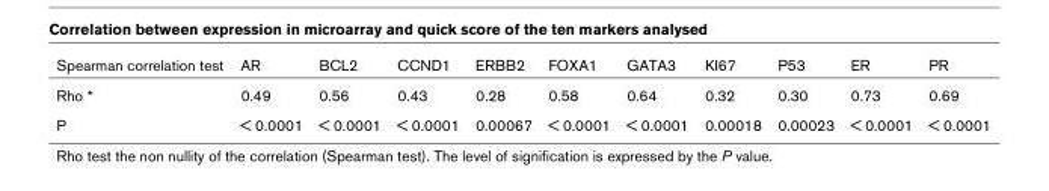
<table><thead><tr><td>Spearman correlation test</td><td>AR</td><td>BCL2</td><td>CCND1</td><td>ERBB2</td><td>FOXA1</td><td>GATA3</td><td>KI67</td><td>P53</td><td>ER</td><td>PR</td></tr></thead><tbody><tr><td>Rho *</td><td>0.49</td><td>0.56</td><td>0.43</td><td>0.28</td><td>0.58</td><td>0.64</td><td>0.32</td><td>0.30</td><td>0.73</td><td>0.69</td></tr><tr><td>P</td><td>&lt; 0.0001</td><td>&lt; 0.0001</td><td>&lt; 0.0001</td><td>0.00067</td><td>&lt; 0.0001</td><td>&lt; 0.0001</td><td>0.00018</td><td>0.00023</td><td>&lt; 0.0001</td><td>&lt; 0.0001</td></tr></tbody></table>